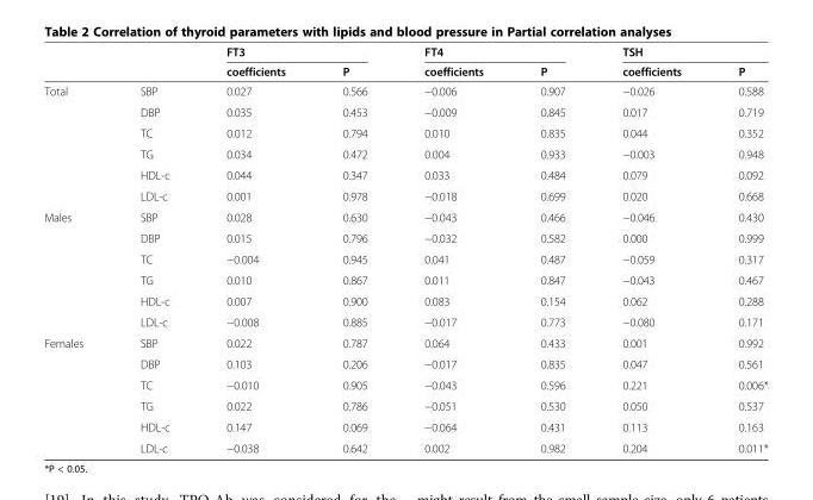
<table><thead><tr><td rowspan="2"></td><td rowspan="2"></td><td colspan="2">FT3</td><td colspan="2">FT4</td><td colspan="2">TSH</td></tr><tr><td>coefficients</td><td>P</td><td>coefficients</td><td>P</td><td>coefficients</td><td>P</td></tr></thead><tbody><tr><td rowspan="6">Total</td><td>SBP</td><td>0.027</td><td>0.566</td><td>−0.006</td><td>0.907</td><td>−0.026</td><td>0.588</td></tr><tr><td>DBP</td><td>0.035</td><td>0.453</td><td>−0.009</td><td>0.845</td><td>0.017</td><td>0.719</td></tr><tr><td>TC</td><td>0.012</td><td>0.794</td><td>0.010</td><td>0.835</td><td>0.044</td><td>0.352</td></tr><tr><td>TG</td><td>0.034</td><td>0.472</td><td>0.004</td><td>0.933</td><td>−0.003</td><td>0.948</td></tr><tr><td>HDL-c</td><td>0.044</td><td>0.347</td><td>0.033</td><td>0.484</td><td>0.079</td><td>0.092</td></tr><tr><td>LDL-c</td><td>0.001</td><td>0.978</td><td>−0.018</td><td>0.699</td><td>0.020</td><td>0.668</td></tr><tr><td rowspan="6">Males</td><td>SBP</td><td>0.028</td><td>0.630</td><td>−0.043</td><td>0.466</td><td>−0.046</td><td>0.430</td></tr><tr><td>DBP</td><td>0.015</td><td>0.796</td><td>−0.032</td><td>0.582</td><td>0.000</td><td>0.999</td></tr><tr><td>TC</td><td>−0.004</td><td>0.945</td><td>0.041</td><td>0.487</td><td>−0.059</td><td>0.317</td></tr><tr><td>TG</td><td>0.010</td><td>0.867</td><td>0.011</td><td>0.847</td><td>−0.043</td><td>0.467</td></tr><tr><td>HDL-c</td><td>0.007</td><td>0.900</td><td>0.083</td><td>0.154</td><td>0.062</td><td>0.288</td></tr><tr><td>LDL-c</td><td>−0.008</td><td>0.885</td><td>−0.017</td><td>0.773</td><td>−0.080</td><td>0.171</td></tr><tr><td rowspan="6">Females</td><td>SBP</td><td>0.022</td><td>0.787</td><td>0.064</td><td>0.433</td><td>0.001</td><td>0.992</td></tr><tr><td>DBP</td><td>0.103</td><td>0.206</td><td>−0.017</td><td>0.835</td><td>0.047</td><td>0.561</td></tr><tr><td>TC</td><td>−0.010</td><td>0.905</td><td>−0.043</td><td>0.596</td><td>0.221</td><td>0.006*</td></tr><tr><td>TG</td><td>0.022</td><td>0.786</td><td>−0.051</td><td>0.530</td><td>0.050</td><td>0.537</td></tr><tr><td>HDL-c</td><td>0.147</td><td>0.069</td><td>−0.064</td><td>0.431</td><td>0.113</td><td>0.163</td></tr><tr><td>LDL-c</td><td>−0.038</td><td>0.642</td><td>0.002</td><td>0.982</td><td>0.204</td><td>0.011*</td></tr></tbody></table>